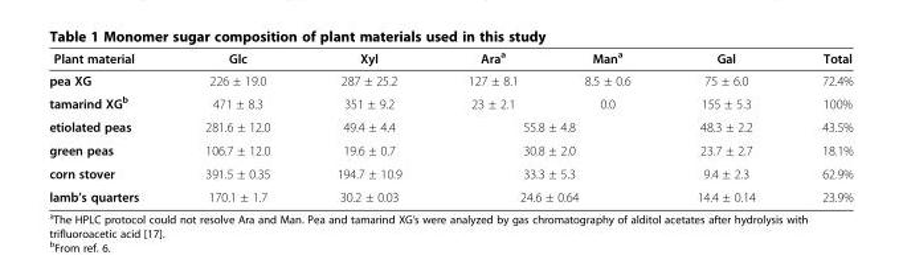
<table><thead><tr><td>Plant material</td><td>Glc</td><td>Xyl</td><td>Ara<sup>a</sup></td><td>Man<sup>a</sup></td><td>Gal</td><td>Total</td></tr></thead><tbody><tr><td>pea XG</td><td>226 ± 19.0</td><td>287 ± 25.2</td><td>127 ± 8.1</td><td>8.5 ± 0.6</td><td>75 ± 6.0</td><td>72.4%</td></tr><tr><td>tamarind XG<sup>b</sup></td><td>471 ± 8.3</td><td>351 ± 9.2</td><td>23 ± 2.1</td><td>0.0</td><td>155 ± 5.3</td><td>100%</td></tr><tr><td>etiolated peas</td><td>281.6 ± 12.0</td><td>49.4 ± 4.4</td><td colspan="2">55.8 ± 4.8</td><td>48.3 ± 2.2</td><td>43.5%</td></tr><tr><td>green peas</td><td>106.7 ± 12.0</td><td>19.6 ± 0.7</td><td colspan="2">30.8 ± 2.0</td><td>23.7 ± 2.7</td><td>18.1%</td></tr><tr><td>corn stover</td><td>391.5 ± 0.35</td><td>194.7 ± 10.9</td><td colspan="2">33.3 ± 5.3</td><td>9.4 ± 2.3</td><td>62.9%</td></tr><tr><td>lamb’s quarters</td><td>170.1 ± 1.7</td><td>30.2 ± 0.03</td><td colspan="2">24.6 ± 0.64</td><td>14.4 ± 0.14</td><td>23.9%</td></tr></tbody></table>